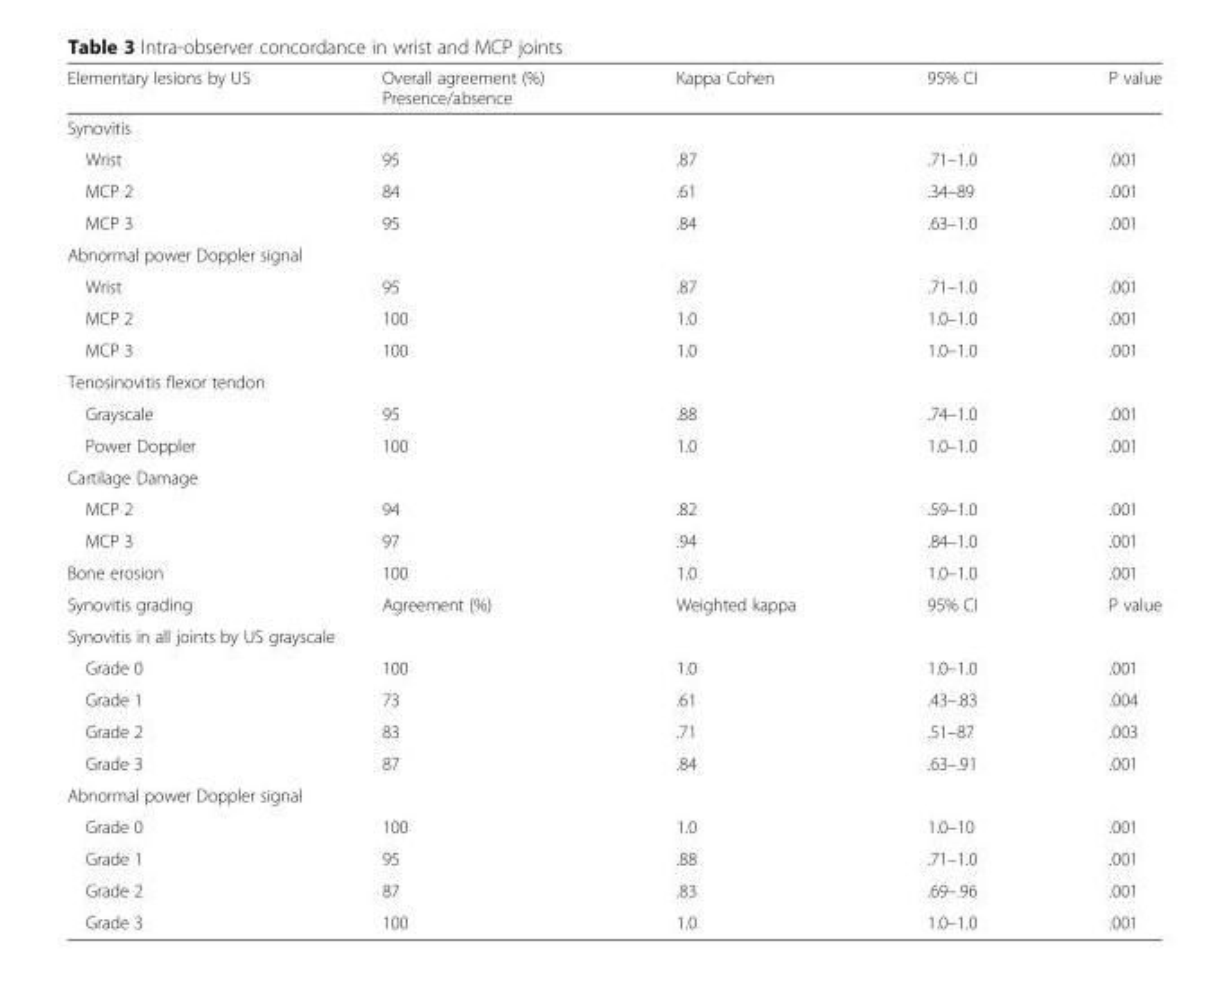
<table><thead><tr><td>Elementary lesions by US</td><td>Overall agreement (%) Presence/absence</td><td>Kappa Cohen</td><td>95% CI</td><td>P value</td></tr></thead><tbody><tr><td colspan="5">Synovitis</td></tr><tr><td>Wrist</td><td>95</td><td>.87</td><td>.71–1.0</td><td>.001</td></tr><tr><td>MCP 2</td><td>84</td><td>.61</td><td>.34–89</td><td>.001</td></tr><tr><td>MCP 3</td><td>95</td><td>.84</td><td>.63–1.0</td><td>.001</td></tr><tr><td colspan="5">Abnormal power Doppler signal</td></tr><tr><td>Wrist</td><td>95</td><td>.87</td><td>.71–1.0</td><td>.001</td></tr><tr><td>MCP 2</td><td>100</td><td>1.0</td><td>1.0–1.0</td><td>.001</td></tr><tr><td>MCP 3</td><td>100</td><td>1.0</td><td>1.0–1.0</td><td>.001</td></tr><tr><td colspan="5">Tenosinovitis flexor tendon</td></tr><tr><td>Grayscale</td><td>95</td><td>.88</td><td>.74–1.0</td><td>.001</td></tr><tr><td>Power Doppler</td><td>100</td><td>1.0</td><td>1.0–1.0</td><td>.001</td></tr><tr><td colspan="5">Cartilage Damage</td></tr><tr><td>MCP 2</td><td>94</td><td>.82</td><td>.59–1.0</td><td>.001</td></tr><tr><td>MCP 3</td><td>97</td><td>.94</td><td>.84–1.0</td><td>.001</td></tr><tr><td>Bone erosion</td><td>100</td><td>1.0</td><td>1.0–1.0</td><td>.001</td></tr><tr><td>Synovitis grading</td><td>Agreement (%)</td><td>Weighted kappa</td><td>95% CI</td><td>P value</td></tr><tr><td colspan="5">Synovitis in all joints by US grayscale</td></tr><tr><td>Grade 0</td><td>100</td><td>1.0</td><td>1.0–1.0</td><td>.001</td></tr><tr><td>Grade 1</td><td>73</td><td>.61</td><td>.43–.83</td><td>.004</td></tr><tr><td>Grade 2</td><td>83</td><td>.71</td><td>.51–87</td><td>.003</td></tr><tr><td>Grade 3</td><td>87</td><td>.84</td><td>.63–.91</td><td>.001</td></tr><tr><td colspan="5">Abnormal power Doppler signal</td></tr><tr><td>Grade 0</td><td>100</td><td>1.0</td><td>1.0–10</td><td>.001</td></tr><tr><td>Grade 1</td><td>95</td><td>.88</td><td>.71–1.0</td><td>.001</td></tr><tr><td>Grade 2</td><td>87</td><td>.83</td><td>.69–.96</td><td>.001</td></tr><tr><td>Grade 3</td><td>100</td><td>1.0</td><td>1.0–1.0</td><td>.001</td></tr></tbody></table>